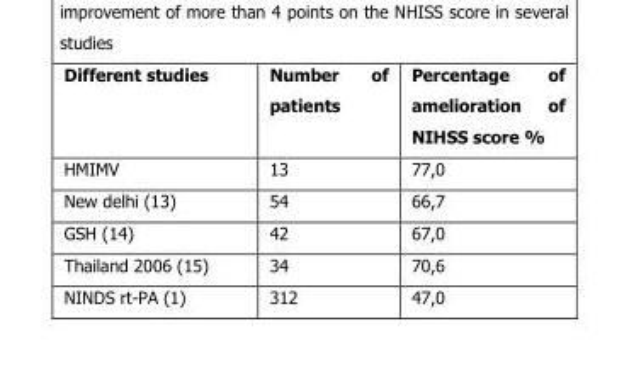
<table><thead><tr><td>Different studies</td><td>Number of patients</td><td>Percentage of amelioration of NIHSS score %</td></tr></thead><tbody><tr><td>HMIMV</td><td>13</td><td>77,0</td></tr><tr><td>New delhi (13)</td><td>54</td><td>66,7</td></tr><tr><td>GSH (14)</td><td>42</td><td>67,0</td></tr><tr><td>Thailand 2006 (15)</td><td>34</td><td>70,6</td></tr><tr><td>NINDS rt-PA (1)</td><td>312</td><td>47,0</td></tr></tbody></table>